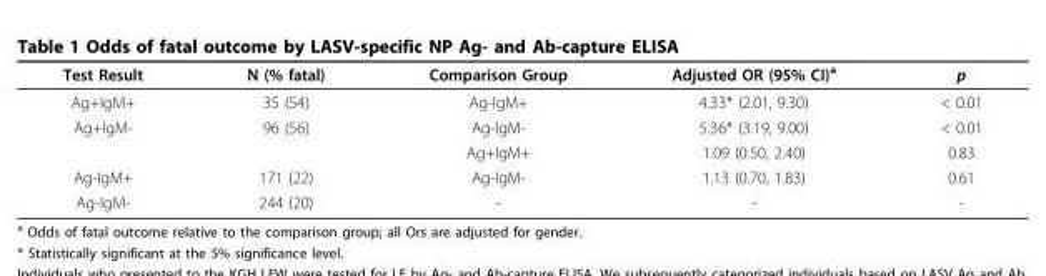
<table><thead><tr><td>Test Result</td><td>N (% fatal)</td><td>Comparison Group</td><td>Adjusted OR (95% CI)<sup>a</sup></td><td>p</td></tr></thead><tbody><tr><td>Ag+IgM+</td><td>35 (54)</td><td>Ag-IgM+</td><td>4.33* (2.01, 9.30)</td><td>&lt; 0.01</td></tr><tr><td rowspan="2">Ag+IgM-</td><td>96 (56)</td><td>Ag-IgM-</td><td>5.36* (3.19, 9.00)</td><td>&lt; 0.01</td></tr><tr><td></td><td>Ag+IgM+</td><td>1.09 (0.50, 2.40)</td><td>0.83</td></tr><tr><td>Ag-IgM+</td><td>171 (22)</td><td>Ag-IgM-</td><td>1.13 (0.70, 1.83)</td><td>0.61</td></tr><tr><td>Ag-IgM-</td><td>244 (20)</td><td>-</td><td>-</td><td>-</td></tr></tbody></table>